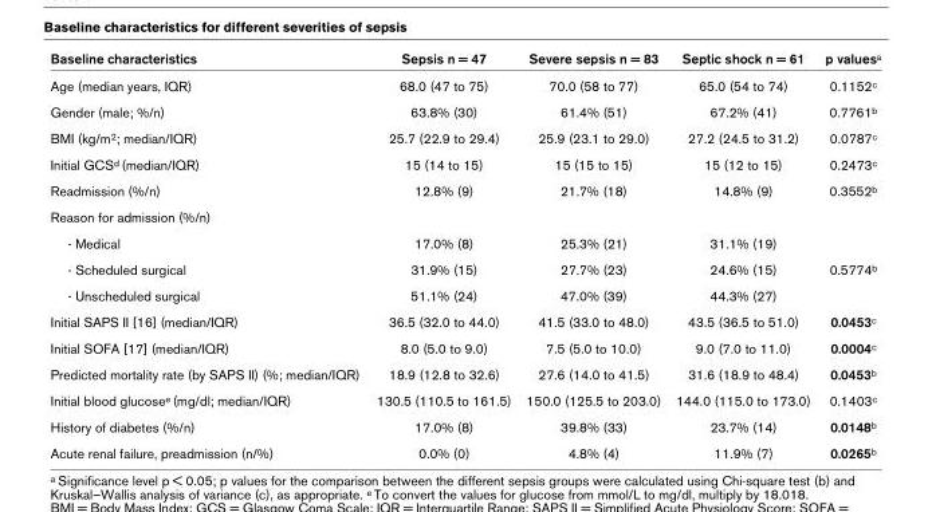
<table><thead><tr><td>Baseline characteristics</td><td>Sepsis n = 47</td><td>Severe sepsis n = 83</td><td>Septic shock n = 61</td><td>p values<sup>a</sup></td></tr></thead><tbody><tr><td>Age (median years, IQR)</td><td>68.0 (47 to 75)</td><td>70.0 (58 to 77)</td><td>65.0 (54 to 74)</td><td>0.1152<sup>c</sup></td></tr><tr><td>Gender (male; %/n)</td><td>63.8% (30)</td><td>61.4% (51)</td><td>67.2% (41)</td><td>0.7761<sup>b</sup></td></tr><tr><td>BMI (kg/m<sup>2</sup>; median/IQR)</td><td>25.7 (22.9 to 29.4)</td><td>25.9 (23.1 to 29.0)</td><td>27.2 (24.5 to 31.2)</td><td>0.0787<sup>c</sup></td></tr><tr><td>Initial GCS<sup>d</sup> (median/IQR)</td><td>15 (14 to 15)</td><td>15 (15 to 15)</td><td>15 (12 to 15)</td><td>0.2473<sup>c</sup></td></tr><tr><td>Readmission (%/n)</td><td>12.8% (9)</td><td>21.7% (18)</td><td>14.8% (9)</td><td>0.3552<sup>b</sup></td></tr><tr><td colspan="5">Reason for admission (%/n)</td></tr><tr><td>- Medical</td><td>17.0% (8)</td><td>25.3% (21)</td><td>31.1% (19)</td><td></td></tr><tr><td>- Scheduled surgical</td><td>31.9% (15)</td><td>27.7% (23)</td><td>24.6% (15)</td><td>0.5774<sup>b</sup></td></tr><tr><td>- Unscheduled surgical</td><td>51.1% (24)</td><td>47.0% (39)</td><td>44.3% (27)</td><td></td></tr><tr><td>Initial SAPS II [16] (median/IQR)</td><td>36.5 (32.0 to 44.0)</td><td>41.5 (33.0 to 48.0)</td><td>43.5 (36.5 to 51.0)</td><td>0.0453<sup>c</sup></td></tr><tr><td>Initial SOFA [17] (median/IQR)</td><td>8.0 (5.0 to 9.0)</td><td>7.5 (5.0 to 10.0)</td><td>9.0 (7.0 to 11.0)</td><td>0.0004<sup>c</sup></td></tr><tr><td>Predicted mortality rate (by SAPS II) (%; median/IQR)</td><td>18.9 (12.8 to 32.6)</td><td>27.6 (14.0 to 41.5)</td><td>31.6 (18.9 to 48.4)</td><td>0.0453<sup>b</sup></td></tr><tr><td>Initial blood glucose<sup>e</sup> (mg/dl; median/IQR)</td><td>130.5 (110.5 to 161.5)</td><td>150.0 (125.5 to 203.0)</td><td>144.0 (115.0 to 173.0)</td><td>0.1403<sup>c</sup></td></tr><tr><td>History of diabetes (%/n)</td><td>17.0% (8)</td><td>39.8% (33)</td><td>23.7% (14)</td><td>0.0148<sup>b</sup></td></tr><tr><td>Acute renal failure, preadmission (n/%)</td><td>0.0% (0)</td><td>4.8% (4)</td><td>11.9% (7)</td><td>0.0265<sup>b</sup></td></tr></tbody></table>